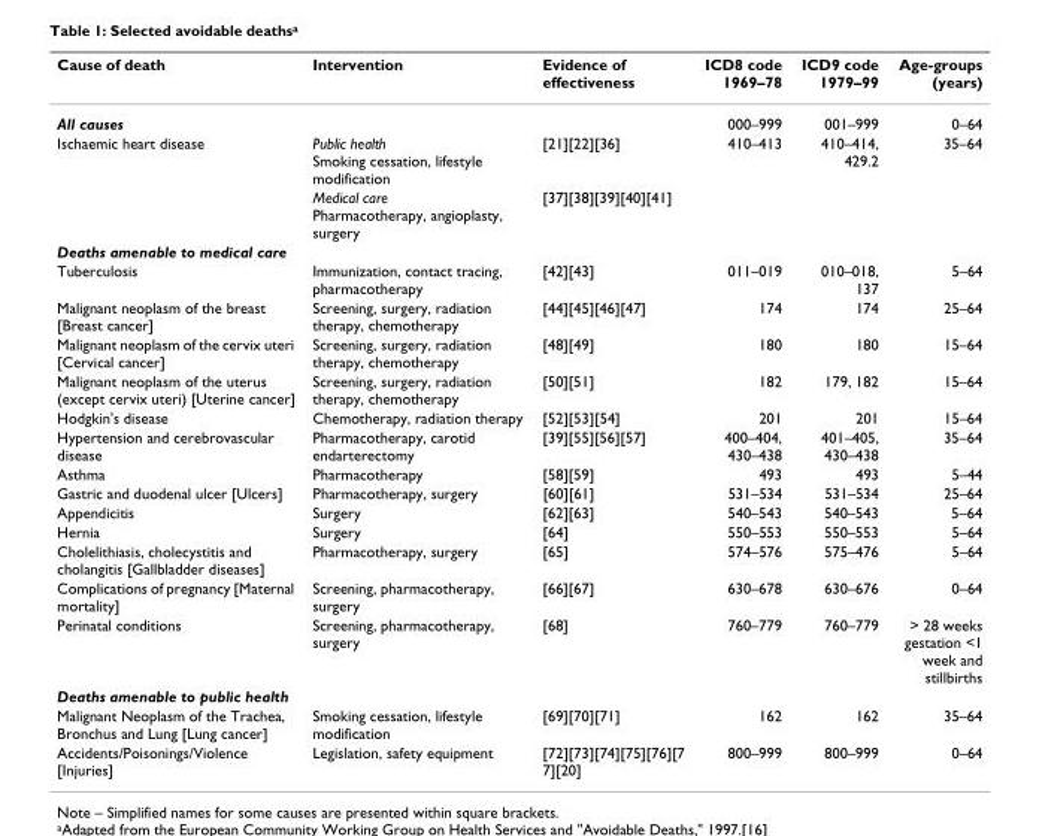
<table><thead><tr><td>Cause of death</td><td>Intervention</td><td>Evidence of effectiveness</td><td>ICD8 code 1969–78</td><td>ICD9 code 1979–99</td><td>Age-groups (years)</td></tr></thead><tbody><tr><td>All causes</td><td></td><td></td><td>000–999</td><td>001–999</td><td>0–64</td></tr><tr><td rowspan="2">Ischaemic heart disease</td><td>Public health Smoking cessation, lifestyle modification</td><td>[21][22][36]</td><td>410–413</td><td>410–414, 429.2</td><td>35–64</td></tr><tr><td>Medical care Pharmacotherapy, angioplasty, surgery</td><td>[37][38][39][40][41]</td><td></td><td></td><td></td></tr><tr><td colspan="6">Deaths amenable to medical care</td></tr><tr><td>Tuberculosis</td><td>Immunization, contact tracing, pharmacotherapy</td><td>[42][43]</td><td>011–019</td><td>010–018, 137</td><td>5–64</td></tr><tr><td>Malignant neoplasm of the breast [Breast cancer]</td><td>Screening, surgery, radiation therapy, chemotherapy</td><td>[44][45][46][47]</td><td>174</td><td>174</td><td>25–64</td></tr><tr><td>Malignant neoplasm of the cervix uteri [Cervical cancer]</td><td>Screening, surgery, radiation therapy, chemotherapy</td><td>[48][49]</td><td>180</td><td>180</td><td>15–64</td></tr><tr><td>Malignant neoplasm of the uterus (except cervix uteri) [Uterine cancer]</td><td>Screening, surgery, radiation therapy, chemotherapy</td><td>[50][51]</td><td>182</td><td>179, 182</td><td>15–64</td></tr><tr><td>Hodgkin&#x27;s disease</td><td>Chemotherapy, radiation therapy</td><td>[52][53][54]</td><td>201</td><td>201</td><td>15–64</td></tr><tr><td>Hypertension and cerebrovascular disease</td><td>Pharmacotherapy, carotid endarterectomy</td><td>[39][55][56][57]</td><td>400–404, 430–438</td><td>401–405, 430–438</td><td>35–64</td></tr><tr><td>Asthma</td><td>Pharmacotherapy</td><td>[58][59]</td><td>493</td><td>493</td><td>5–44</td></tr><tr><td>Gastric and duodenal ulcer [Ulcers]</td><td>Pharmacotherapy, surgery</td><td>[60][61]</td><td>531–534</td><td>531–534</td><td>25–64</td></tr><tr><td>Appendicitis</td><td>Surgery</td><td>[62][63]</td><td>540–543</td><td>540–543</td><td>5–64</td></tr><tr><td>Hernia</td><td>Surgery</td><td>[64]</td><td>550–553</td><td>550–553</td><td>5–64</td></tr><tr><td>Cholelithiasis, cholecystitis and cholangitis [Gallbladder diseases]</td><td>Pharmacotherapy, surgery</td><td>[65]</td><td>574–576</td><td>575–476</td><td>5–64</td></tr><tr><td>Complications of pregnancy [Maternal mortality]</td><td>Screening, pharmacotherapy, surgery</td><td>[66][67]</td><td>630–678</td><td>630–676</td><td>0–64</td></tr><tr><td>Perinatal conditions</td><td>Screening, pharmacotherapy, surgery</td><td>[68]</td><td>760–779</td><td>760–779</td><td>&gt; 28 weeks gestation &lt;1 week and stillbirths</td></tr><tr><td colspan="6">Deaths amenable to public health</td></tr><tr><td>Malignant Neoplasm of the Trachea, Bronchus and Lung [Lung cancer]</td><td>Smoking cessation, lifestyle modification</td><td>[69][70][71]</td><td>162</td><td>162</td><td>35–64</td></tr><tr><td>Accidents/Poisonings/Violence [Injuries]</td><td>Legislation, safety equipment</td><td>[72][73][74][75][76][7 7][20]</td><td>800–999</td><td>800–999</td><td>0–64</td></tr></tbody></table>